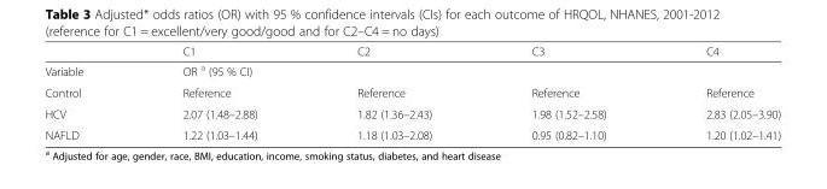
<table><thead><tr><td></td><td>C1</td><td>C2</td><td>C3</td><td>C4</td></tr></thead><tbody><tr><td>Variable</td><td colspan="4">OR <sup>a</sup> (95 % CI)</td></tr><tr><td>Control</td><td>Reference</td><td>Reference</td><td>Reference</td><td>Reference</td></tr><tr><td>HCV</td><td>2.07 (1.48–2.88)</td><td>1.82 (1.36–2.43)</td><td>1.98 (1.52–2.58)</td><td>2.83 (2.05–3.90)</td></tr><tr><td>NAFLD</td><td>1.22 (1.03–1.44)</td><td>1.18 (1.03–2.08)</td><td>0.95 (0.82–1.10)</td><td>1.20 (1.02–1.41)</td></tr></tbody></table>